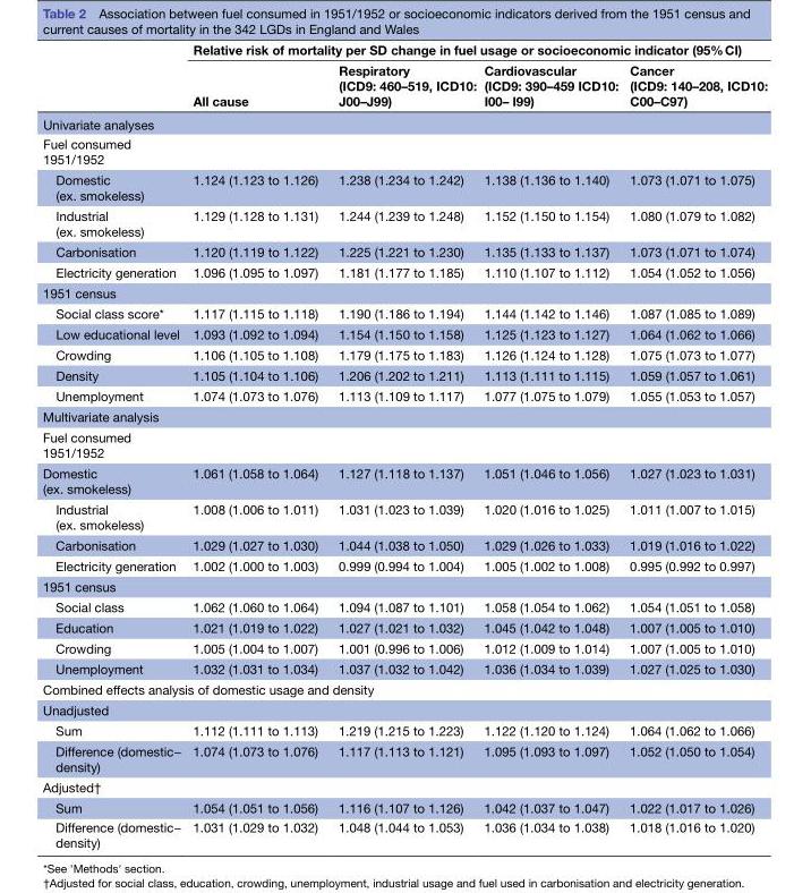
<table><thead><tr><td rowspan="2"></td><td colspan="4">Relative risk of mortality per SD change in fuel usage or socioeconomic indicator (95% CI)</td></tr><tr><td>All cause</td><td>Respiratory (ICD9: 460–519, ICD10: J00–J99)</td><td>Cardiovascular (ICD9: 390–459 ICD10: I00– I99)</td><td>Cancer (ICD9: 140–208, ICD10: C00–C97)</td></tr></thead><tbody><tr><td colspan="5">Univariate analyses</td></tr><tr><td colspan="5">Fuel consumed 1951/1952</td></tr><tr><td>Domestic (ex. smokeless)</td><td>1.124 (1.123 to 1.126)</td><td>1.238 (1.234 to 1.242)</td><td>1.138 (1.136 to 1.140)</td><td>1.073 (1.071 to 1.075)</td></tr><tr><td>Industrial (ex. smokeless)</td><td>1.129 (1.128 to 1.131)</td><td>1.244 (1.239 to 1.248)</td><td>1.152 (1.150 to 1.154)</td><td>1.080 (1.079 to 1.082)</td></tr><tr><td>Carbonisation</td><td>1.120 (1.119 to 1.122)</td><td>1.225 (1.221 to 1.230)</td><td>1.135 (1.133 to 1.137)</td><td>1.073 (1.071 to 1.074)</td></tr><tr><td>Electricity generation</td><td>1.096 (1.095 to 1.097)</td><td>1.181 (1.177 to 1.185)</td><td>1.110 (1.107 to 1.112)</td><td>1.054 (1.052 to 1.056)</td></tr><tr><td colspan="5">1951 census</td></tr><tr><td>Social class score*</td><td>1.117 (1.115 to 1.118)</td><td>1.190 (1.186 to 1.194)</td><td>1.144 (1.142 to 1.146)</td><td>1.087 (1.085 to 1.089)</td></tr><tr><td>Low educational level</td><td>1.093 (1.092 to 1.094)</td><td>1.154 (1.150 to 1.158)</td><td>1.125 (1.123 to 1.127)</td><td>1.064 (1.062 to 1.066)</td></tr><tr><td>Crowding</td><td>1.106 (1.105 to 1.108)</td><td>1.179 (1.175 to 1.183)</td><td>1.126 (1.124 to 1.128)</td><td>1.075 (1.073 to 1.077)</td></tr><tr><td>Density</td><td>1.105 (1.104 to 1.106)</td><td>1.206 (1.202 to 1.211)</td><td>1.113 (1.111 to 1.115)</td><td>1.059 (1.057 to 1.061)</td></tr><tr><td>Unemployment</td><td>1.074 (1.073 to 1.076)</td><td>1.113 (1.109 to 1.117)</td><td>1.077 (1.075 to 1.079)</td><td>1.055 (1.053 to 1.057)</td></tr><tr><td colspan="5">Multivariate analysis</td></tr><tr><td colspan="5">Fuel consumed 1951/1952</td></tr><tr><td>Domestic (ex. smokeless)</td><td>1.061 (1.058 to 1.064)</td><td>1.127 (1.118 to 1.137)</td><td>1.051 (1.046 to 1.056)</td><td>1.027 (1.023 to 1.031)</td></tr><tr><td>Industrial (ex. smokeless)</td><td>1.008 (1.006 to 1.011)</td><td>1.031 (1.023 to 1.039)</td><td>1.020 (1.016 to 1.025)</td><td>1.011 (1.007 to 1.015)</td></tr><tr><td>Carbonisation</td><td>1.029 (1.027 to 1.030)</td><td>1.044 (1.038 to 1.050)</td><td>1.029 (1.026 to 1.033)</td><td>1.019 (1.016 to 1.022)</td></tr><tr><td>Electricity generation</td><td>1.002 (1.000 to 1.003)</td><td>0.999 (0.994 to 1.004)</td><td>1.005 (1.002 to 1.008)</td><td>0.995 (0.992 to 0.997)</td></tr><tr><td colspan="5">1951 census</td></tr><tr><td>Social class</td><td>1.062 (1.060 to 1.064)</td><td>1.094 (1.087 to 1.101)</td><td>1.058 (1.054 to 1.062)</td><td>1.054 (1.051 to 1.058)</td></tr><tr><td>Education</td><td>1.021 (1.019 to 1.022)</td><td>1.027 (1.021 to 1.032)</td><td>1.045 (1.042 to 1.048)</td><td>1.007 (1.005 to 1.010)</td></tr><tr><td>Crowding</td><td>1.005 (1.004 to 1.007)</td><td>1.001 (0.996 to 1.006)</td><td>1.012 (1.009 to 1.014)</td><td>1.007 (1.005 to 1.010)</td></tr><tr><td>Unemployment</td><td>1.032 (1.031 to 1.034)</td><td>1.037 (1.032 to 1.042)</td><td>1.036 (1.034 to 1.039)</td><td>1.027 (1.025 to 1.030)</td></tr><tr><td colspan="5">Combined effects analysis of domestic usage and density</td></tr><tr><td colspan="5">Unadjusted</td></tr><tr><td>Sum</td><td>1.112 (1.111 to 1.113)</td><td>1.219 (1.215 to 1.223)</td><td>1.122 (1.120 to 1.124)</td><td>1.064 (1.062 to 1.066)</td></tr><tr><td>Difference (domestic− density)</td><td>1.074 (1.073 to 1.076)</td><td>1.117 (1.113 to 1.121)</td><td>1.095 (1.093 to 1.097)</td><td>1.052 (1.050 to 1.054)</td></tr><tr><td colspan="5">Adjusted†</td></tr><tr><td>Sum</td><td>1.054 (1.051 to 1.056)</td><td>1.116 (1.107 to 1.126)</td><td>1.042 (1.037 to 1.047)</td><td>1.022 (1.017 to 1.026)</td></tr><tr><td>Difference (domestic− density)</td><td>1.031 (1.029 to 1.032)</td><td>1.048 (1.044 to 1.053)</td><td>1.036 (1.034 to 1.038)</td><td>1.018 (1.016 to 1.020)</td></tr></tbody></table>